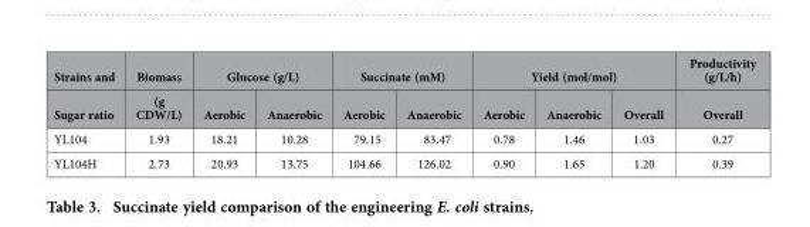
<table><thead><tr><td rowspan="2">Strains and Sugar ratio</td><td rowspan="2">Biomass (g CDW/L)</td><td colspan="2">Glucose (g/L)</td><td colspan="2">Succinate (mM)</td><td colspan="3">Yield (mol/mol)</td><td rowspan="2">Productivity (g/L/h) Overall</td></tr><tr><td>Aerobic</td><td>Anaerobic</td><td>Aerobic</td><td>Anaerobic</td><td>Aerobic</td><td>Anaerobic</td><td>Overall</td></tr></thead><tbody><tr><td>YL104</td><td>1.93</td><td>18.21</td><td>10.28</td><td>79.15</td><td>83.47</td><td>0.78</td><td>1.46</td><td>1.03</td><td>0.27</td></tr><tr><td>YL104H</td><td>2.73</td><td>20.93</td><td>13.75</td><td>104.66</td><td>126.02</td><td>0.90</td><td>1.65</td><td>1.20</td><td>0.39</td></tr></tbody></table>